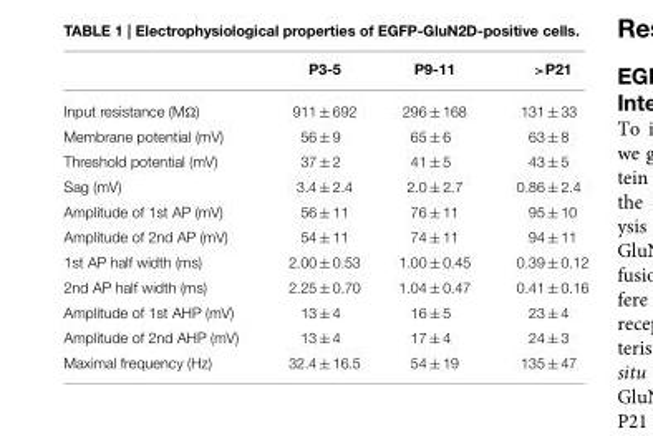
<table><thead><tr><td></td><td>P3-5</td><td>P9-11</td><td>&gt;P21</td></tr></thead><tbody><tr><td>Input resistance (MΩ)</td><td>911 ± 692</td><td>296 ± 168</td><td>131 ± 33</td></tr><tr><td>Membrane potential (mV)</td><td>56 ± 9</td><td>65 ± 6</td><td>63 ± 8</td></tr><tr><td>Threshold potential (mV)</td><td>37 ± 2</td><td>41 ± 5</td><td>43 ± 5</td></tr><tr><td>Sag (mV)</td><td>3.4 ± 2.4</td><td>2.0 ± 2.7</td><td>0.86 ± 2.4</td></tr><tr><td>Amplitude of 1st AP (mV)</td><td>56 ± 11</td><td>76 ± 11</td><td>95 ± 10</td></tr><tr><td>Amplitude of 2nd AP (mV)</td><td>54 ± 11</td><td>74 ± 11</td><td>94 ± 11</td></tr><tr><td>1st AP half width (ms)</td><td>2.00 ± 0.53</td><td>1.00 ± 0.45</td><td>0.39 ± 0.12</td></tr><tr><td>2nd AP half width (ms)</td><td>2.25 ± 0.70</td><td>1.04 ± 0.47</td><td>0.41 ± 0.16</td></tr><tr><td>Amplitude of 1st AHP (mV)</td><td>13 ± 4</td><td>16 ± 5</td><td>23 ± 4</td></tr><tr><td>Amplitude of 2nd AHP (mV)</td><td>13 ± 4</td><td>17 ± 4</td><td>24 ± 3</td></tr><tr><td>Maximal frequency (Hz)</td><td>32.4 ± 16.5</td><td>54 ± 19</td><td>135 ± 47</td></tr></tbody></table>